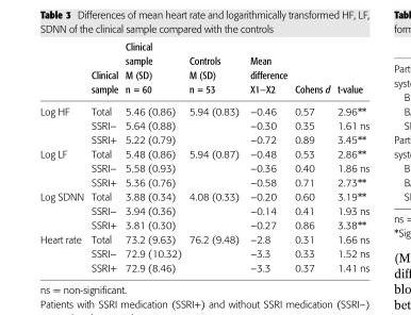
<table><thead><tr><td></td><td>Clinical sample</td><td>Clinical sample M (SD) n = 60</td><td>Controls M (SD) n = 53</td><td>Mean difference X1−X2</td><td>Cohens d</td><td>t-value</td></tr></thead><tbody><tr><td rowspan="3">Log HF</td><td>Total</td><td>5.46 (0.86)</td><td>5.94 (0.83)</td><td>−0.46</td><td>0.57</td><td>2.96**</td></tr><tr><td>SSRI−</td><td>5.64 (0.88)</td><td></td><td>−0.30</td><td>0.35</td><td>1.61 ns</td></tr><tr><td>SSRI+</td><td>5.22 (0.79)</td><td></td><td>−0.72</td><td>0.89</td><td>3.45**</td></tr><tr><td rowspan="3">Log LF</td><td>Total</td><td>5.48 (0.86)</td><td>5.94 (0.87)</td><td>−0.48</td><td>0.53</td><td>2.86**</td></tr><tr><td>SSRI−</td><td>5.58 (0.93)</td><td></td><td>−0.36</td><td>0.40</td><td>1.86 ns</td></tr><tr><td>SSRI+</td><td>5.36 (0.76)</td><td></td><td>−0.58</td><td>0.71</td><td>2.73**</td></tr><tr><td rowspan="3">Log SDNN</td><td>Total</td><td>3.88 (0.34)</td><td>4.08 (0.33)</td><td>−0.20</td><td>0.60</td><td>3.19**</td></tr><tr><td>SSRI−</td><td>3.94 (0.36)</td><td></td><td>−0.14</td><td>0.41</td><td>1.93 ns</td></tr><tr><td>SSRI+</td><td>3.81 (0.30)</td><td></td><td>−0.27</td><td>0.86</td><td>3.38**</td></tr><tr><td rowspan="3">Heart rate</td><td>Total</td><td>73.2 (9.63)</td><td>76.2 (9.48)</td><td>−2.8</td><td>0.31</td><td>1.66 ns</td></tr><tr><td>SSRI−</td><td>72.9 (10.32)</td><td></td><td>−3.3</td><td>0.33</td><td>1.52 ns</td></tr><tr><td>SSRI+</td><td>72.9 (8.46)</td><td></td><td>−3.3</td><td>0.37</td><td>1.41 ns</td></tr></tbody></table>